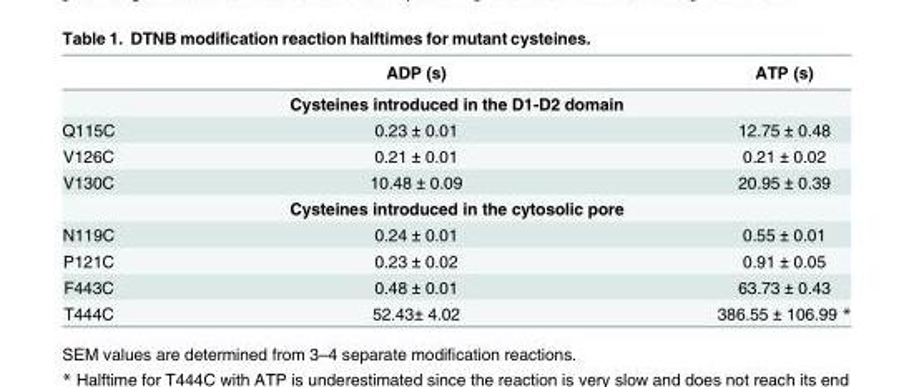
<table><thead><tr><td></td><td>ADP (s)</td><td>ATP (s)</td></tr></thead><tbody><tr><td colspan="3">Cysteines introduced in the D1-D2 domain</td></tr><tr><td>Q115C</td><td>0.23 ± 0.01</td><td>12.75 ± 0.48</td></tr><tr><td>V126C</td><td>0.21 ± 0.01</td><td>0.21 ± 0.02</td></tr><tr><td>V130C</td><td>10.48 ± 0.09</td><td>20.95 ± 0.39</td></tr><tr><td colspan="3">Cysteines introduced in the cytosolic pore</td></tr><tr><td>N119C</td><td>0.24 ± 0.01</td><td>0.55 ± 0.01</td></tr><tr><td>P121C</td><td>0.23 ± 0.02</td><td>0.91 ± 0.05</td></tr><tr><td>F443C</td><td>0.48 ± 0.01</td><td>63.73 ± 0.43</td></tr><tr><td>T444C</td><td>52.43± 4.02</td><td>386.55 ± 106.99 *</td></tr></tbody></table>